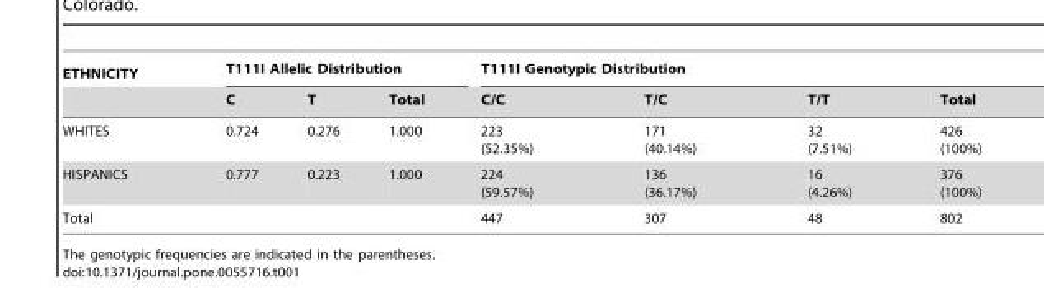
<table><thead><tr><td rowspan="2">ETHNICITY</td><td colspan="3">T111I Allelic Distribution</td><td colspan="4">T111I Genotypic Distribution</td></tr><tr><td>C</td><td>T</td><td>Total</td><td>C/C</td><td>T/C</td><td>T/T</td><td>Total</td></tr></thead><tbody><tr><td>WHITES</td><td>0.724</td><td>0.276</td><td>1.000</td><td>223 (52.35%)</td><td>171 (40.14%)</td><td>32 (7.51%)</td><td>426 (100%)</td></tr><tr><td>HISPANICS</td><td>0.777</td><td>0.223</td><td>1.000</td><td>224 (59.57%)</td><td>136 (36.17%)</td><td>16 (4.26%)</td><td>376 (100%)</td></tr><tr><td>Total</td><td colspan="3"></td><td>447</td><td>307</td><td>48</td><td>802</td></tr></tbody></table>